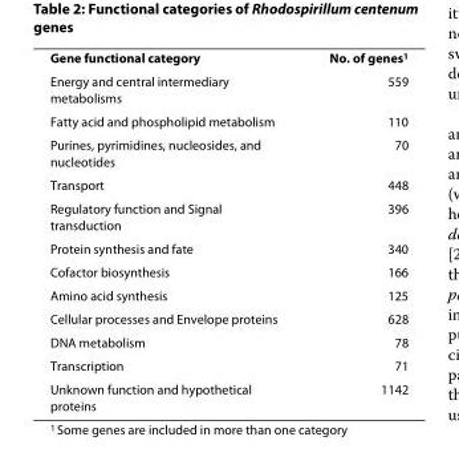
<table><tbody><tr><td>Gene functional category</td><td>No. of genes<sup>1</sup></td></tr><tr><td>Energy and central intermediary metabolisms</td><td>559</td></tr><tr><td>Fatty acid and phospholipid metabolism</td><td>110</td></tr><tr><td>Purines, pyrimidines, nucleosides, and nucleotides</td><td>70</td></tr><tr><td>Transport</td><td>448</td></tr><tr><td>Regulatory function and Signal transduction</td><td>396</td></tr><tr><td>Protein synthesis and fate</td><td>340</td></tr><tr><td>Cofactor biosynthesis</td><td>166</td></tr><tr><td>Amino acid synthesis</td><td>125</td></tr><tr><td>Cellular processes and Envelope proteins</td><td>628</td></tr><tr><td>DNA metabolism</td><td>78</td></tr><tr><td>Transcription</td><td>71</td></tr><tr><td>Unknown function and hypothetical proteins</td><td>1142</td></tr></tbody></table>